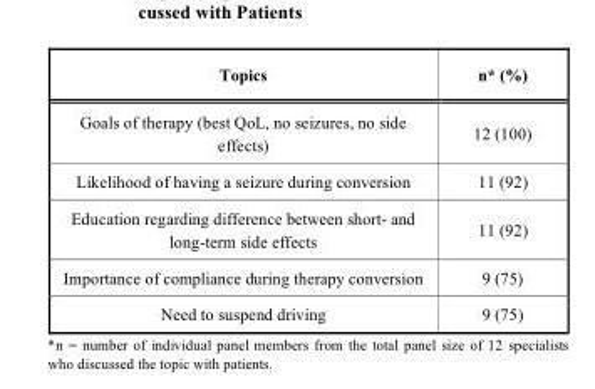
<table><thead><tr><td>Topics</td><td>n* (%)</td></tr></thead><tbody><tr><td>Goals of therapy (best QoL, no seizures, no side effects)</td><td>12 (100)</td></tr><tr><td>Likelihood of having a seizure during conversion</td><td>11 (92)</td></tr><tr><td>Education regarding difference between short- and long-term side effects</td><td>11 (92)</td></tr><tr><td>Importance of compliance during therapy conversion</td><td>9 (75)</td></tr><tr><td>Need to suspend driving</td><td>9 (75)</td></tr></tbody></table>